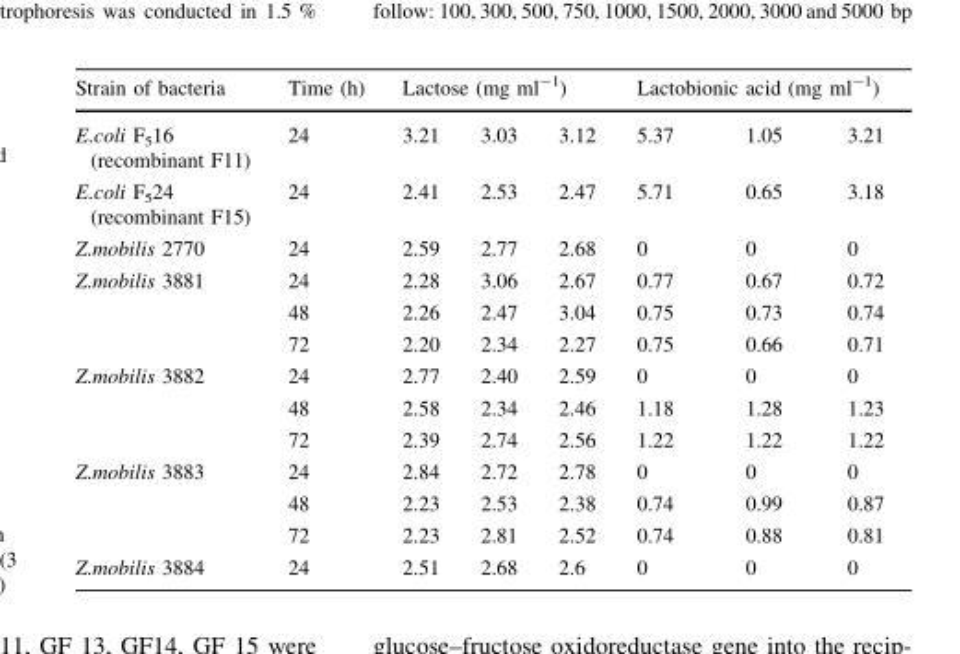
<table><thead><tr><td rowspan="2">Strain of bacteria E.coli F<sub>5</sub>16 (recombinant F11)</td><td rowspan="2">Time (h) 24</td><td colspan="3">Lactose (mg ml<sup>-1</sup>)</td><td colspan="3">Lactobionic acid (mg ml<sup>-1</sup>)</td></tr><tr><td>3.21</td><td>3.03</td><td>3.12</td><td>5.37</td><td>1.05</td><td>3.21</td></tr></thead><tbody><tr><td>E.coli F<sub>5</sub>24 (recombinant F15)</td><td>24</td><td>2.41</td><td>2.53</td><td>2.47</td><td>5.71</td><td>0.65</td><td>3.18</td></tr><tr><td>Z.mobilis 2770</td><td>24</td><td>2.59</td><td>2.77</td><td>2.68</td><td>0</td><td>0</td><td>0</td></tr><tr><td rowspan="3">Z.mobilis 3881</td><td>24</td><td>2.28</td><td>3.06</td><td>2.67</td><td>0.77</td><td>0.67</td><td>0.72</td></tr><tr><td>48</td><td>2.26</td><td>2.47</td><td>3.04</td><td>0.75</td><td>0.73</td><td>0.74</td></tr><tr><td>72</td><td>2.20</td><td>2.34</td><td>2.27</td><td>0.75</td><td>0.66</td><td>0.71</td></tr><tr><td rowspan="3">Z.mobilis 3882</td><td>24</td><td>2.77</td><td>2.40</td><td>2.59</td><td>0</td><td>0</td><td>0</td></tr><tr><td>48</td><td>2.58</td><td>2.34</td><td>2.46</td><td>1.18</td><td>1.28</td><td>1.23</td></tr><tr><td>72</td><td>2.39</td><td>2.74</td><td>2.56</td><td>1.22</td><td>1.22</td><td>1.22</td></tr><tr><td rowspan="3">Z.mobilis 3883</td><td>24</td><td>2.84</td><td>2.72</td><td>2.78</td><td>0</td><td>0</td><td>0</td></tr><tr><td>48</td><td>2.23</td><td>2.53</td><td>2.38</td><td>0.74</td><td>0.99</td><td>0.87</td></tr><tr><td>72</td><td>2.23</td><td>2.81</td><td>2.52</td><td>0.74</td><td>0.88</td><td>0.81</td></tr><tr><td>Z.mobilis 3884</td><td>24</td><td>2.51</td><td>2.68</td><td>2.6</td><td>0</td><td>0</td><td>0</td></tr></tbody></table>